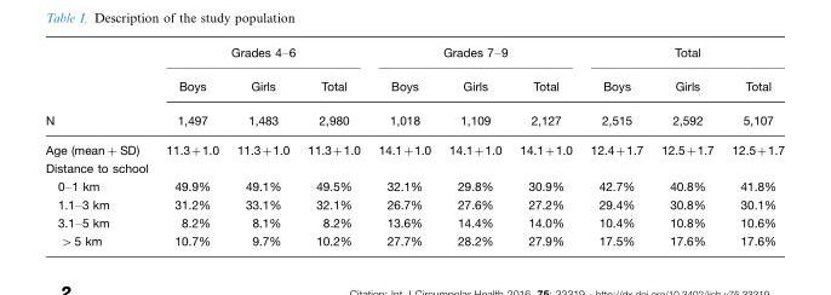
<table><thead><tr><td rowspan="3">N</td><td colspan="3">Grades 4–6</td><td colspan="3">Grades 7–9</td><td colspan="3">Total</td></tr><tr><td rowspan="2">Boys 1,497</td><td rowspan="2">Girls 1,483</td><td rowspan="2">Total 2,980</td><td rowspan="2">Boys 1,018</td><td rowspan="2">Girls 1,109</td><td rowspan="2">Total 2,127</td><td rowspan="2">Boys 2,515</td><td rowspan="2">Girls 2,592</td><td rowspan="2">Total 5,107</td></tr><tr></tr></thead><tbody><tr><td>Age (mean+SD)</td><td>11.3+1.0</td><td>11.3+1.0</td><td>11.3+1.0</td><td>14.1+1.0</td><td>14.1+1.0</td><td>14.1+1.0</td><td>12.4+1.7</td><td>12.5+1.7</td><td>12.5+1.7</td></tr><tr><td colspan="10">Distance to school</td></tr><tr><td>0–1 km</td><td>49.9%</td><td>49.1%</td><td>49.5%</td><td>32.1%</td><td>29.8%</td><td>30.9%</td><td>42.7%</td><td>40.8%</td><td>41.8%</td></tr><tr><td>1.1–3 km</td><td>31.2%</td><td>33.1%</td><td>32.1%</td><td>26.7%</td><td>27.6%</td><td>27.2%</td><td>29.4%</td><td>30.8%</td><td>30.1%</td></tr><tr><td>3.1–5 km</td><td>8.2%</td><td>8.1%</td><td>8.2%</td><td>13.6%</td><td>14.4%</td><td>14.0%</td><td>10.4%</td><td>10.8%</td><td>10.6%</td></tr><tr><td>&gt;5 km</td><td>10.7%</td><td>9.7%</td><td>10.2%</td><td>27.7%</td><td>28.2%</td><td>27.9%</td><td>17.5%</td><td>17.6%</td><td>17.6%</td></tr></tbody></table>